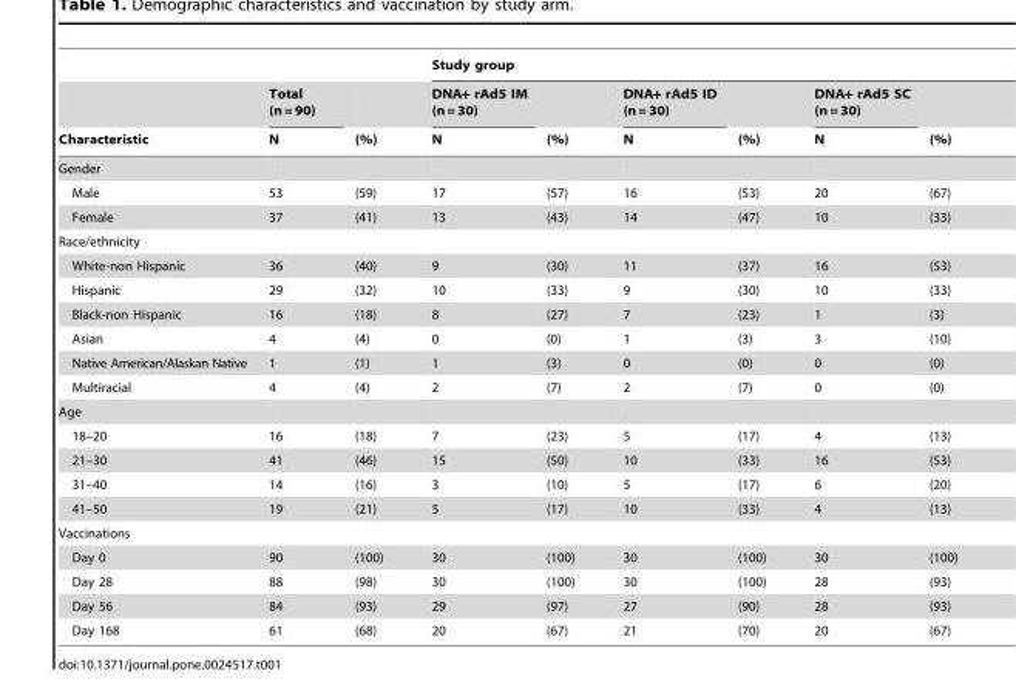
<table><thead><tr><td rowspan="3">Characteristic</td><td rowspan="3">Total (n = 90) N</td><td rowspan="3">(%)</td><td colspan="6">Study group</td></tr><tr><td rowspan="2">DNA+ rAd5 IM (n = 30) N</td><td rowspan="2">(%)</td><td rowspan="2">DNA+ rAd5 ID (n = 30) N</td><td rowspan="2">(%)</td><td rowspan="2">DNA+ rAd5 SC (n = 30) N</td><td rowspan="2">(%)</td></tr><tr></tr></thead><tbody><tr><td colspan="9">Gender</td></tr><tr><td>Male</td><td>53</td><td>(59)</td><td>17</td><td>(57)</td><td>16</td><td>(53)</td><td>20</td><td>(67)</td></tr><tr><td>Female</td><td>37</td><td>(41)</td><td>13</td><td>(43)</td><td>14</td><td>(47)</td><td>10</td><td>(33)</td></tr><tr><td colspan="9">Race/ethnicity</td></tr><tr><td>White-non Hispanic</td><td>36</td><td>(40)</td><td>9</td><td>(30)</td><td>11</td><td>(37)</td><td>16</td><td>(53)</td></tr><tr><td>Hispanic</td><td>29</td><td>(32)</td><td>10</td><td>(33)</td><td>9</td><td>(30)</td><td>10</td><td>(33)</td></tr><tr><td>Black-non Hispanic</td><td>16</td><td>(18)</td><td>8</td><td>(27)</td><td>7</td><td>(23)</td><td>1</td><td>(3)</td></tr><tr><td>Asian</td><td>4</td><td>(4)</td><td>0</td><td>(0)</td><td>1</td><td>(3)</td><td>3</td><td>(10)</td></tr><tr><td>Native American/Alaskan Native</td><td>1</td><td>(1)</td><td>1</td><td>(3)</td><td>0</td><td>(0)</td><td>0</td><td>(0)</td></tr><tr><td>Multiracial</td><td>4</td><td>(4)</td><td>2</td><td>(7)</td><td>2</td><td>(7)</td><td>0</td><td>(0)</td></tr><tr><td colspan="9">Age</td></tr><tr><td>18–20</td><td>16</td><td>(18)</td><td>7</td><td>(23)</td><td>5</td><td>(17)</td><td>4</td><td>(13)</td></tr><tr><td>21–30</td><td>41</td><td>(46)</td><td>15</td><td>(50)</td><td>10</td><td>(33)</td><td>16</td><td>(53)</td></tr><tr><td>31–40</td><td>14</td><td>(16)</td><td>3</td><td>(10)</td><td>5</td><td>(17)</td><td>6</td><td>(20)</td></tr><tr><td>41–50</td><td>19</td><td>(21)</td><td>5</td><td>(17)</td><td>10</td><td>(33)</td><td>4</td><td>(13)</td></tr><tr><td colspan="9">Vaccinations</td></tr><tr><td>Day 0</td><td>90</td><td>(100)</td><td>30</td><td>(100)</td><td>30</td><td>(100)</td><td>30</td><td>(100)</td></tr><tr><td>Day 28</td><td>88</td><td>(98)</td><td>30</td><td>(100)</td><td>30</td><td>(100)</td><td>28</td><td>(93)</td></tr><tr><td>Day 56</td><td>84</td><td>(93)</td><td>29</td><td>(97)</td><td>27</td><td>(90)</td><td>28</td><td>(93)</td></tr><tr><td>Day 168</td><td>61</td><td>(68)</td><td>20</td><td>(67)</td><td>21</td><td>(70)</td><td>20</td><td>(67)</td></tr></tbody></table>